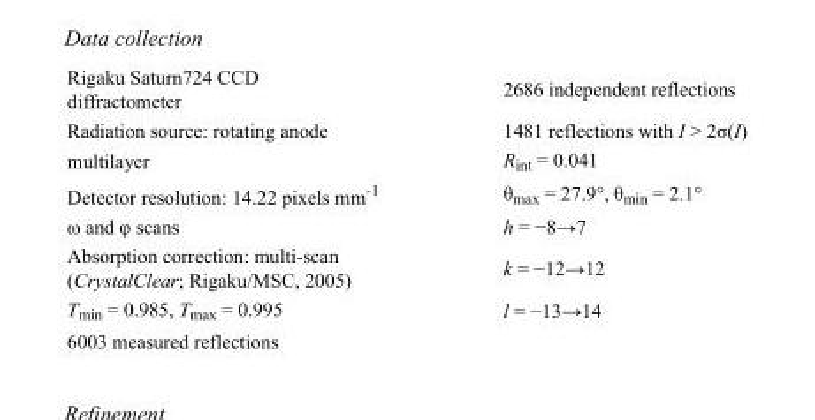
<table><tbody><tr><td>Rigaku Saturn724 CCD diffractometer</td><td>2686 independent reflections</td></tr><tr><td>Radiation source: rotating anode</td><td>1481 reflections with I &gt; 2σ(I)</td></tr><tr><td>multilayer</td><td>R<sub>int</sub> = 0.041</td></tr><tr><td>Detector resolution: 14.22 pixels mm<sup>-1</sup></td><td>θ<sub>max</sub> = 27.9°, θ<sub>min</sub> = 2.1°</td></tr><tr><td>ω and φ scans</td><td>h = −8→7</td></tr><tr><td>Absorption correction: multi-scan (CrystalClear; Rigaku/MSC, 2005)</td><td>k = −12→12</td></tr><tr><td>T<sub>min</sub> = 0.985, T<sub>max</sub> = 0.995</td><td>l = −13→14</td></tr><tr><td>6003 measured reflections</td><td></td></tr></tbody></table>